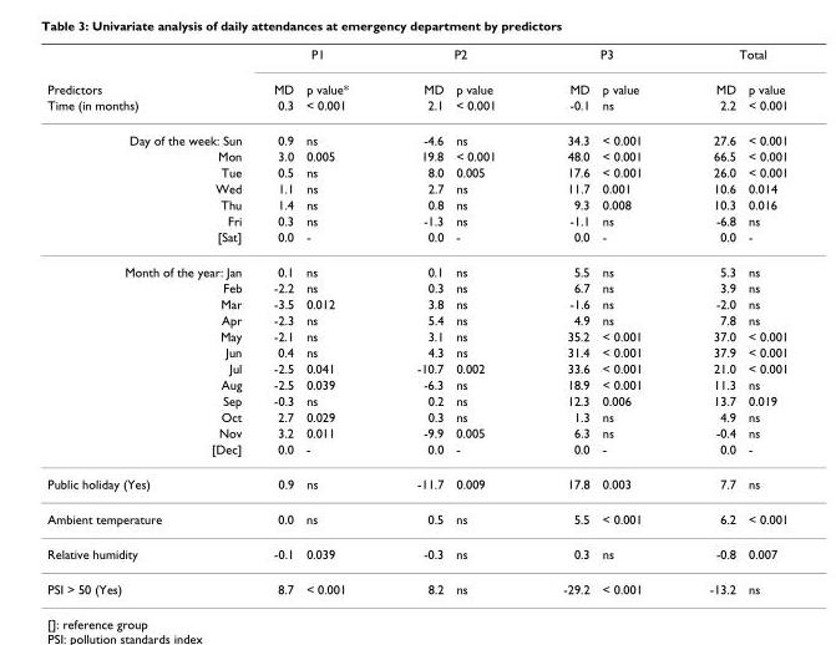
<table><thead><tr><td rowspan="3">Predictors Time (in months)</td><td colspan="2">P1</td><td colspan="2">P2</td><td colspan="2">P3</td><td colspan="2">Total</td></tr><tr><td rowspan="2">MD 0.3</td><td rowspan="2">p value* &lt; 0.001</td><td rowspan="2">MD 2.1</td><td rowspan="2">p value &lt; 0.001</td><td rowspan="2">MD -0.1</td><td rowspan="2">p value ns</td><td rowspan="2">MD 2.2</td><td rowspan="2">p value &lt; 0.001</td></tr><tr></tr></thead><tbody><tr><td>Day of the week: Sun</td><td>0.9</td><td>ns</td><td>-4.6</td><td>ns</td><td>34.3</td><td>&lt; 0.001</td><td>27.6</td><td>&lt; 0.001</td></tr><tr><td>Mon</td><td>3.0</td><td>0.005</td><td>19.8</td><td>&lt; 0.001</td><td>48.0</td><td>&lt; 0.001</td><td>66.5</td><td>&lt; 0.001</td></tr><tr><td>Tue</td><td>0.5</td><td>ns</td><td>8.0</td><td>0.005</td><td>17.6</td><td>&lt; 0.001</td><td>26.0</td><td>&lt; 0.001</td></tr><tr><td>Wed</td><td>1.1</td><td>ns</td><td>2.7</td><td>ns</td><td>11.7</td><td>0.001</td><td>10.6</td><td>0.014</td></tr><tr><td>Thu</td><td>1.4</td><td>ns</td><td>0.8</td><td>ns</td><td>9.3</td><td>0.008</td><td>10.3</td><td>0.016</td></tr><tr><td>Fri</td><td>0.3</td><td>ns</td><td>-1.3</td><td>ns</td><td>-1.1</td><td>ns</td><td>-6.8</td><td>ns</td></tr><tr><td>[Sat]</td><td>0.0</td><td>-</td><td>0.0</td><td>-</td><td>0.0</td><td>-</td><td>0.0</td><td>-</td></tr><tr><td>Month of the year: Jan</td><td>0.1</td><td>ns</td><td>0.1</td><td>ns</td><td>5.5</td><td>ns</td><td>5.3</td><td>ns</td></tr><tr><td>Feb</td><td>-2.2</td><td>ns</td><td>0.3</td><td>ns</td><td>6.7</td><td>ns</td><td>3.9</td><td>ns</td></tr><tr><td>Mar</td><td>-3.5</td><td>0.012</td><td>3.8</td><td>ns</td><td>-1.6</td><td>ns</td><td>-2.0</td><td>ns</td></tr><tr><td>Apr</td><td>-2.3</td><td>ns</td><td>5.4</td><td>ns</td><td>4.9</td><td>ns</td><td>7.8</td><td>ns</td></tr><tr><td>May</td><td>-2.1</td><td>ns</td><td>3.1</td><td>ns</td><td>35.2</td><td>&lt; 0.001</td><td>37.0</td><td>&lt; 0.001</td></tr><tr><td>Jun</td><td>0.4</td><td>ns</td><td>4.3</td><td>ns</td><td>31.4</td><td>&lt; 0.001</td><td>37.9</td><td>&lt; 0.001</td></tr><tr><td>Jul</td><td>-2.5</td><td>0.041</td><td>-10.7</td><td>0.002</td><td>33.6</td><td>&lt; 0.001</td><td>21.0</td><td>&lt; 0.001</td></tr><tr><td>Aug</td><td>-2.5</td><td>0.039</td><td>-6.3</td><td>ns</td><td>18.9</td><td>&lt; 0.001</td><td>11.3</td><td>ns</td></tr><tr><td>Sep</td><td>-0.3</td><td>ns</td><td>0.2</td><td>ns</td><td>12.3</td><td>0.006</td><td>13.7</td><td>0.019</td></tr><tr><td>Oct</td><td>2.7</td><td>0.029</td><td>0.3</td><td>ns</td><td>1.3</td><td>ns</td><td>4.9</td><td>ns</td></tr><tr><td>Nov</td><td>3.2</td><td>0.011</td><td>-9.9</td><td>0.005</td><td>6.3</td><td>ns</td><td>-0.4</td><td>ns</td></tr><tr><td>[Dec]</td><td>0.0</td><td>-</td><td>0.0</td><td>-</td><td>0.0</td><td>-</td><td>0.0</td><td>-</td></tr><tr><td>Public holiday (Yes)</td><td>0.9</td><td>ns</td><td>-11.7</td><td>0.009</td><td>17.8</td><td>0.003</td><td>7.7</td><td>ns</td></tr><tr><td>Ambient temperature</td><td>0.0</td><td>ns</td><td>0.5</td><td>ns</td><td>5.5</td><td>&lt; 0.001</td><td>6.2</td><td>&lt; 0.001</td></tr><tr><td>Relative humidity</td><td>-0.1</td><td>0.039</td><td>-0.3</td><td>ns</td><td>0.3</td><td>ns</td><td>-0.8</td><td>0.007</td></tr><tr><td>PSI &gt; 50 (Yes)</td><td>8.7</td><td>&lt; 0.001</td><td>8.2</td><td>ns</td><td>-29.2</td><td>&lt; 0.001</td><td>-13.2</td><td>ns</td></tr></tbody></table>